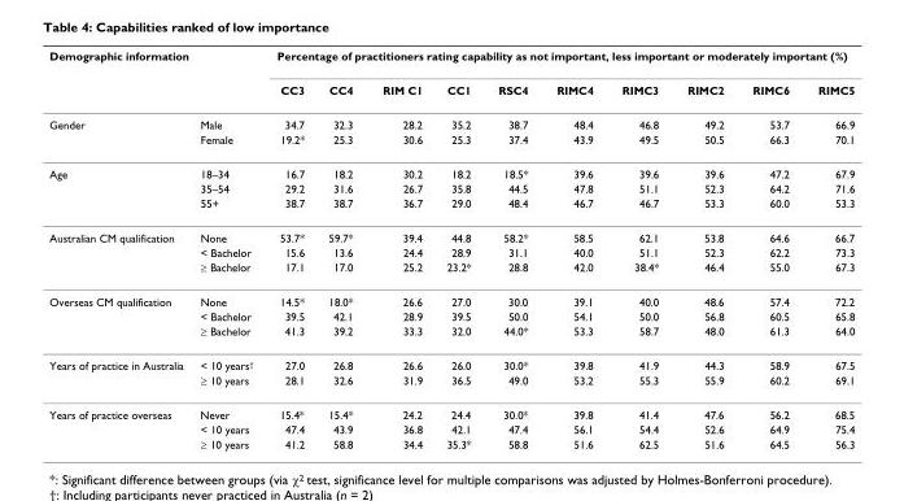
<table><thead><tr><td colspan="2">Demographic information</td><td colspan="10">Percentage of practitioners rating capability as not important, less important or moderately important (%)</td></tr><tr><td></td><td></td><td>CC3</td><td>CC4</td><td>RIM C1</td><td>CC1</td><td>RSC4</td><td>RIMC4</td><td>RIMC3</td><td>RIMC2</td><td>RIMC6</td><td>RIMC5</td></tr></thead><tbody><tr><td rowspan="2">Gender</td><td>Male</td><td>34.7</td><td>32.3</td><td>28.2</td><td>35.2</td><td>38.7</td><td>48.4</td><td>46.8</td><td>49.2</td><td>53.7</td><td>66.9</td></tr><tr><td>Female</td><td>19.2*</td><td>25.3</td><td>30.6</td><td>25.3</td><td>37.4</td><td>43.9</td><td>49.5</td><td>50.5</td><td>66.3</td><td>70.1</td></tr><tr><td rowspan="3">Age</td><td>18–34</td><td>16.7</td><td>18.2</td><td>30.2</td><td>18.2</td><td>18.5*</td><td>39.6</td><td>39.6</td><td>39.6</td><td>47.2</td><td>67.9</td></tr><tr><td>35–54</td><td>29.2</td><td>31.6</td><td>26.7</td><td>35.8</td><td>44.5</td><td>47.8</td><td>51.1</td><td>52.3</td><td>64.2</td><td>71.6</td></tr><tr><td>55+</td><td>38.7</td><td>38.7</td><td>36.7</td><td>29.0</td><td>48.4</td><td>46.7</td><td>46.7</td><td>53.3</td><td>60.0</td><td>53.3</td></tr><tr><td rowspan="3">Australian CM qualification</td><td>None</td><td>53.7*</td><td>59.7*</td><td>39.4</td><td>44.8</td><td>58.2*</td><td>58.5</td><td>62.1</td><td>53.8</td><td>64.6</td><td>66.7</td></tr><tr><td>&lt; Bachelor</td><td>15.6</td><td>13.6</td><td>24.4</td><td>28.9</td><td>31.1</td><td>40.0</td><td>51.1</td><td>52.3</td><td>62.2</td><td>73.3</td></tr><tr><td>≥ Bachelor</td><td>17.1</td><td>17.0</td><td>25.2</td><td>23.2*</td><td>28.8</td><td>42.0</td><td>38.4*</td><td>46.4</td><td>55.0</td><td>67.3</td></tr><tr><td rowspan="3">Overseas CM qualification</td><td>None</td><td>14.5*</td><td>18.0*</td><td>26.6</td><td>27.0</td><td>30.0</td><td>39.1</td><td>40.0</td><td>48.6</td><td>57.4</td><td>72.2</td></tr><tr><td>&lt; Bachelor</td><td>39.5</td><td>42.1</td><td>28.9</td><td>39.5</td><td>50.0</td><td>54.1</td><td>50.0</td><td>56.8</td><td>60.5</td><td>65.8</td></tr><tr><td>≥ Bachelor</td><td>41.3</td><td>39.2</td><td>33.3</td><td>32.0</td><td>44.0*</td><td>53.3</td><td>58.7</td><td>48.0</td><td>61.3</td><td>64.0</td></tr><tr><td rowspan="2">Years of practice in Australia</td><td>&lt; 10 years<sup>†</sup></td><td>27.0</td><td>26.8</td><td>26.6</td><td>26.0</td><td>30.0*</td><td>39.8</td><td>41.9</td><td>44.3</td><td>58.9</td><td>67.5</td></tr><tr><td>≥ 10 years</td><td>28.1</td><td>32.6</td><td>31.9</td><td>36.5</td><td>49.0</td><td>53.2</td><td>55.3</td><td>55.9</td><td>60.2</td><td>69.1</td></tr><tr><td rowspan="3">Years of practice overseas</td><td>Never</td><td>15.4*</td><td>15.4*</td><td>24.2</td><td>24.4</td><td>30.0*</td><td>39.8</td><td>41.4</td><td>47.6</td><td>56.2</td><td>68.5</td></tr><tr><td>&lt; 10 years</td><td>47.4</td><td>43.9</td><td>36.8</td><td>42.1</td><td>47.4</td><td>56.1</td><td>54.4</td><td>52.6</td><td>64.9</td><td>75.4</td></tr><tr><td>≥ 10 years</td><td>41.2</td><td>58.8</td><td>34.4</td><td>35.3*</td><td>58.8</td><td>51.6</td><td>62.5</td><td>51.6</td><td>64.5</td><td>56.3</td></tr></tbody></table>